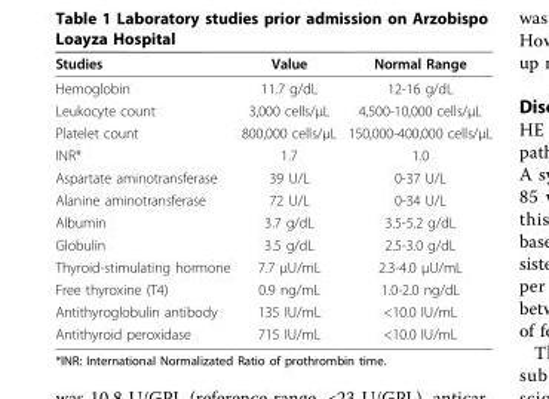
<table><thead><tr><td>Studies</td><td>Value</td><td>Normal Range</td></tr></thead><tbody><tr><td>Hemoglobin</td><td>11.7 g/dL</td><td>12-16 g/dL</td></tr><tr><td>Leukocyte count</td><td>3,000 cells/μL</td><td>4,500-10,000 cells/μL</td></tr><tr><td>Platelet count</td><td>800,000 cells/μL</td><td>150,000-400,000 cells/μL</td></tr><tr><td>INR*</td><td>1.7</td><td>1.0</td></tr><tr><td>Aspartate aminotransferase</td><td>39 U/L</td><td>0-37 U/L</td></tr><tr><td>Alanine aminotransferase</td><td>72 U/L</td><td>0-34 U/L</td></tr><tr><td>Albumin</td><td>3.7 g/dL</td><td>3.5-5.2 g/dL</td></tr><tr><td>Globulin</td><td>3.5 g/dL</td><td>2.5-3.0 g/dL</td></tr><tr><td>Thyroid-stimulating hormone</td><td>7.7 μU/mL</td><td>2.3-4.0 μU/mL</td></tr><tr><td>Free thyroxine (T4)</td><td>0.9 ng/mL</td><td>1.0-2.0 ng/dL</td></tr><tr><td>Antithyroglobulin antibody</td><td>135 IU/mL</td><td>&lt;10.0 IU/mL</td></tr><tr><td>Antithyroid peroxidase</td><td>715 IU/mL</td><td>&lt;10.0 IU/mL</td></tr></tbody></table>